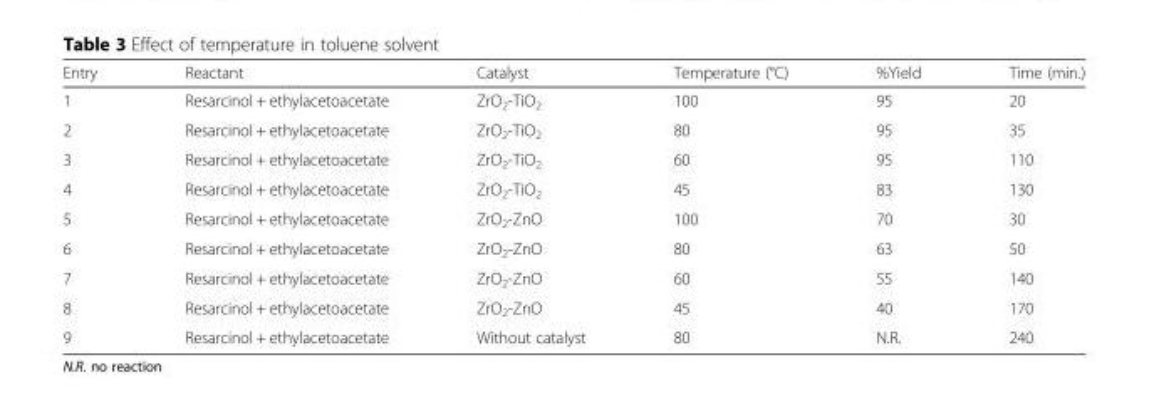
<table><thead><tr><td>Entry</td><td>Reactant</td><td>Catalyst</td><td>Temperature (°C)</td><td>%Yield</td><td>Time (min.)</td></tr></thead><tbody><tr><td>1</td><td>Resarcinol + ethylacetoacetate</td><td>ZrO<sub>2</sub>-TiO<sub>2</sub></td><td>100</td><td>95</td><td>20</td></tr><tr><td>2</td><td>Resarcinol + ethylacetoacetate</td><td>ZrO<sub>2</sub>-TiO<sub>2</sub></td><td>80</td><td>95</td><td>35</td></tr><tr><td>3</td><td>Resarcinol + ethylacetoacetate</td><td>ZrO<sub>2</sub>-TiO<sub>2</sub></td><td>60</td><td>95</td><td>110</td></tr><tr><td>4</td><td>Resarcinol + ethylacetoacetate</td><td>ZrO<sub>2</sub>-TiO<sub>2</sub></td><td>45</td><td>83</td><td>130</td></tr><tr><td>5</td><td>Resarcinol + ethylacetoacetate</td><td>ZrO<sub>2</sub>-ZnO</td><td>100</td><td>70</td><td>30</td></tr><tr><td>6</td><td>Resarcinol + ethylacetoacetate</td><td>ZrO<sub>2</sub>-ZnO</td><td>80</td><td>63</td><td>50</td></tr><tr><td>7</td><td>Resarcinol + ethylacetoacetate</td><td>ZrO<sub>2</sub>-ZnO</td><td>60</td><td>55</td><td>140</td></tr><tr><td>8</td><td>Resarcinol + ethylacetoacetate</td><td>ZrO<sub>2</sub>-ZnO</td><td>45</td><td>40</td><td>170</td></tr><tr><td>9</td><td>Resarcinol + ethylacetoacetate</td><td>Without catalyst</td><td>80</td><td>N.R.</td><td>240</td></tr></tbody></table>